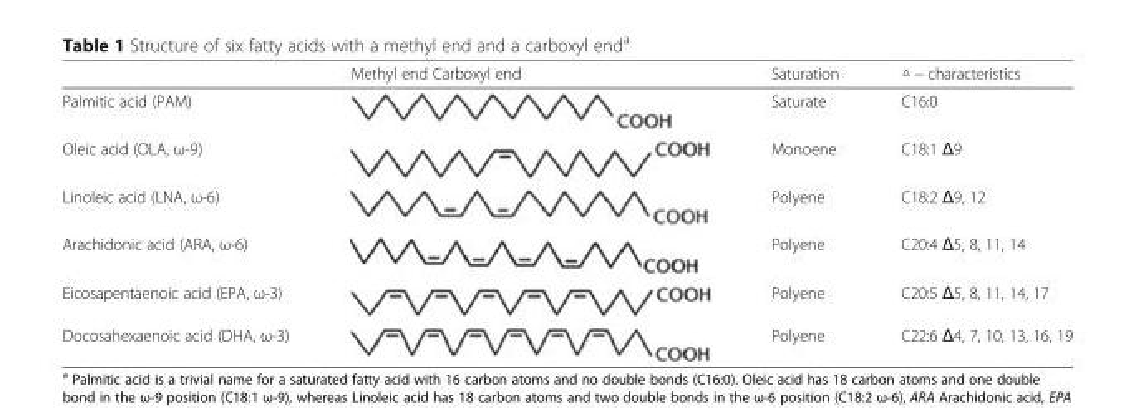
<table><thead><tr><td></td><td>Methyl end Carboxyl end</td><td>Saturation</td><td>△ − characteristics</td></tr></thead><tbody><tr><td>Palmitic acid (PAM)</td><td></td><td>Saturate</td><td>C16:0</td></tr><tr><td>Oleic acid (OLA, ω-9)</td><td></td><td>Monoene</td><td>C18:1 Δ9</td></tr><tr><td>Linoleic acid (LNA, ω-6)</td><td></td><td>Polyene</td><td>C18:2 Δ9, 12</td></tr><tr><td>Arachidonic acid (ARA, ω-6)</td><td></td><td>Polyene</td><td>C20:4 Δ5, 8, 11, 14</td></tr><tr><td>Eicosapentaenoic acid (EPA, ω-3)</td><td></td><td>Polyene</td><td>C20:5 Δ5, 8, 11, 14, 17</td></tr><tr><td>Docosahexaenoic acid (DHA, ω-3)</td><td></td><td>Polyene</td><td>C22:6 Δ4, 7, 10, 13, 16, 19</td></tr></tbody></table>